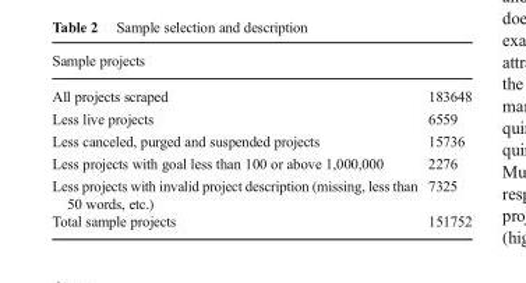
<table><thead><tr><td colspan="2">Sample projects</td></tr><tr><td>All projects scraped</td><td>183648</td></tr></thead><tbody><tr><td>Less live projects</td><td>6559</td></tr><tr><td>Less canceled, purged and suspended projects</td><td>15736</td></tr><tr><td>Less projects with goal less than 100 or above 1,000,000</td><td>2276</td></tr><tr><td>Less projects with invalid project description (missing, less than 50 words, etc.)</td><td>7325</td></tr><tr><td>Total sample projects</td><td>151752</td></tr></tbody></table>